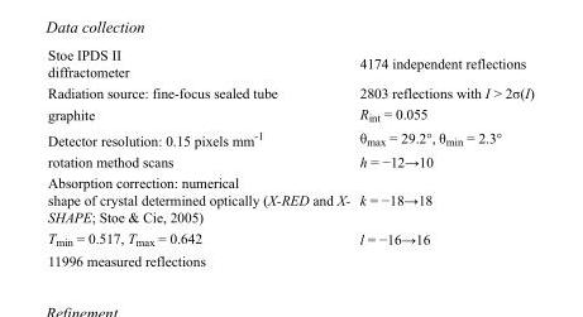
<table><tbody><tr><td>Stoe IPDS II diffractometer</td><td>4174 independent reflections</td></tr><tr><td>Radiation source: fine-focus sealed tube</td><td>2803 reflections with I &gt; 2σ(I)</td></tr><tr><td>graphite</td><td>R<sub>int</sub> = 0.055</td></tr><tr><td>Detector resolution: 0.15 pixels mm<sup>-1</sup></td><td>θ<sub>max</sub> = 29.2°, θ<sub>min</sub> = 2.3°</td></tr><tr><td>rotation method scans</td><td>h = −12→10</td></tr><tr><td>Absorption correction: numerical shape of crystal determined optically (X-RED and X- SHAPE; Stoe &amp; Cie, 2005)</td><td>k = −18→18</td></tr><tr><td>T<sub>min</sub> = 0.517, T<sub>max</sub> = 0.642</td><td>l = −16→16</td></tr><tr><td>11996 measured reflections</td><td></td></tr></tbody></table>